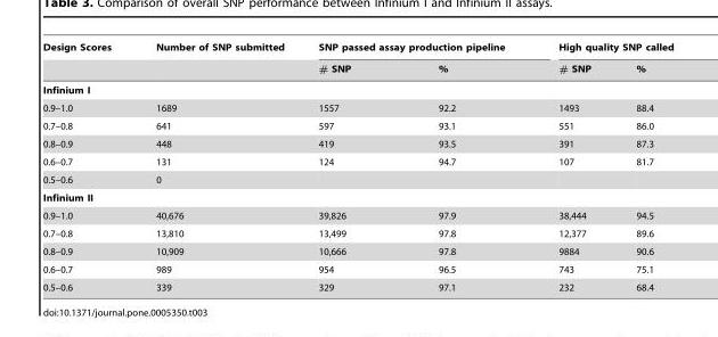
<table><thead><tr><td rowspan="2">Design Scores</td><td rowspan="2">Number of SNP submitted</td><td colspan="2">SNP passed assay production pipeline</td><td colspan="2">High quality SNP called</td></tr><tr><td># SNP</td><td>%</td><td># SNP</td><td>%</td></tr></thead><tbody><tr><td colspan="6">Infinium I</td></tr><tr><td>0.9–1.0</td><td>1689</td><td>1557</td><td>92.2</td><td>1493</td><td>88.4</td></tr><tr><td>0.7–0.8</td><td>641</td><td>597</td><td>93.1</td><td>551</td><td>86.0</td></tr><tr><td>0.8–0.9</td><td>448</td><td>419</td><td>93.5</td><td>391</td><td>87.3</td></tr><tr><td>0.6–0.7</td><td>131</td><td>124</td><td>94.7</td><td>107</td><td>81.7</td></tr><tr><td>0.5–0.6</td><td>0</td><td></td><td></td><td></td><td></td></tr><tr><td colspan="6">Infinium II</td></tr><tr><td>0.9–1.0</td><td>40,676</td><td>39,826</td><td>97.9</td><td>38,444</td><td>94.5</td></tr><tr><td>0.7–0.8</td><td>13,810</td><td>13,499</td><td>97.8</td><td>12,377</td><td>89.6</td></tr><tr><td>0.8–0.9</td><td>10,909</td><td>10,666</td><td>97.8</td><td>9884</td><td>90.6</td></tr><tr><td>0.6–0.7</td><td>989</td><td>954</td><td>96.5</td><td>743</td><td>75.1</td></tr><tr><td>0.5–0.6</td><td>339</td><td>329</td><td>97.1</td><td>232</td><td>68.4</td></tr></tbody></table>